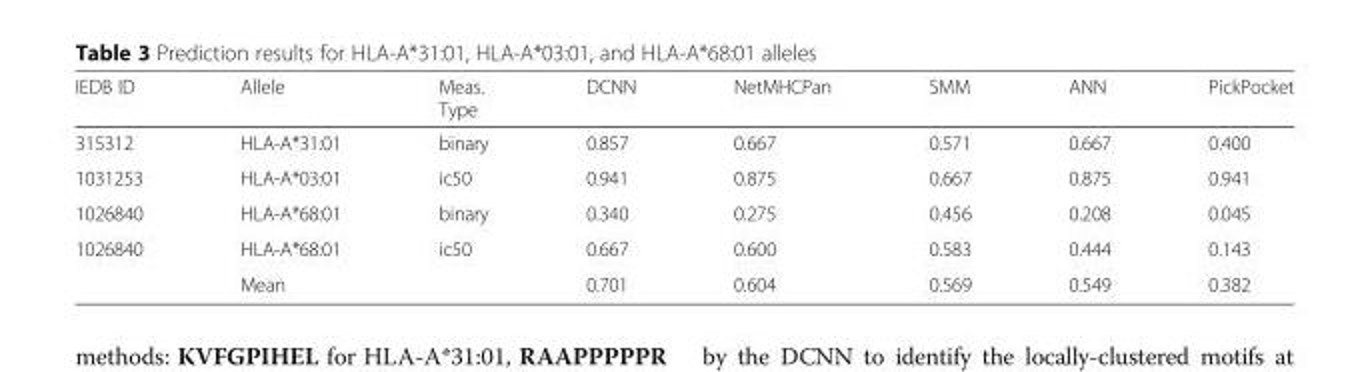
<table><thead><tr><td>IEDB ID</td><td>Allele</td><td>Meas. Type</td><td>DCNN</td><td>NetMHCPan</td><td>SMM</td><td>ANN</td><td>PickPocket</td></tr></thead><tbody><tr><td>315312</td><td>HLA-A*31:01</td><td>binary</td><td>0.857</td><td>0.667</td><td>0.571</td><td>0.667</td><td>0.400</td></tr><tr><td>1031253</td><td>HLA-A*03:01</td><td>ic50</td><td>0.941</td><td>0.875</td><td>0.667</td><td>0.875</td><td>0.941</td></tr><tr><td>1026840</td><td>HLA-A*68:01</td><td>binary</td><td>0.340</td><td>0.275</td><td>0.456</td><td>0.208</td><td>0.045</td></tr><tr><td rowspan="2">1026840</td><td>HLA-A*68:01</td><td>ic50</td><td>0.667</td><td>0.600</td><td>0.583</td><td>0.444</td><td>0.143</td></tr><tr><td colspan="2">Mean</td><td>0.701</td><td>0.604</td><td>0.569</td><td>0.549</td><td>0.382</td></tr></tbody></table>